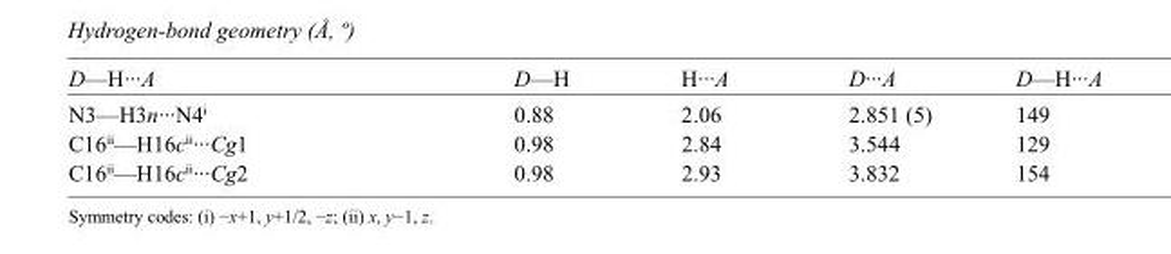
<table><tbody><tr><td>D—H···A</td><td>D—H</td><td>H···A</td><td>D···A</td><td>D—H···A</td></tr><tr><td>N3—H3n···N4<sup>i</sup></td><td>0.88</td><td>2.06</td><td>2.851 (5)</td><td>149</td></tr><tr><td>C16<sup>ii</sup>—H16c<sup>ii</sup>···Cg1</td><td>0.98</td><td>2.84</td><td>3.544</td><td>129</td></tr><tr><td>C16<sup>ii</sup>—H16c<sup>ii</sup>···Cg2</td><td>0.98</td><td>2.93</td><td>3.832</td><td>154</td></tr></tbody></table>